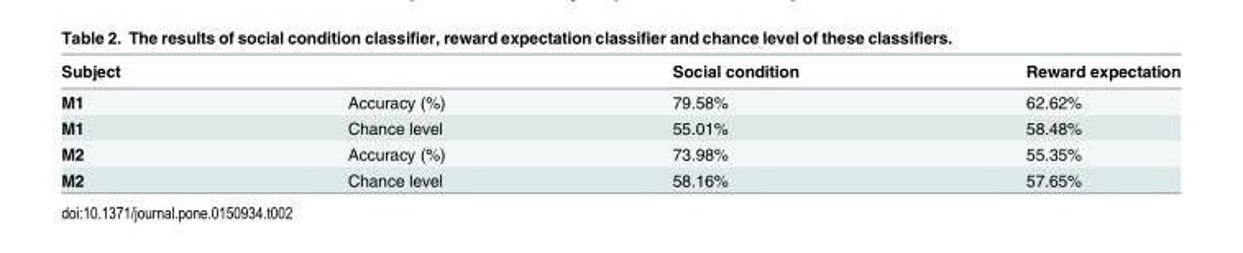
<table><thead><tr><td>Subject</td><td></td><td>Social condition</td><td>Reward expectation</td></tr></thead><tbody><tr><td>M1</td><td>Accuracy (%)</td><td>79.58%</td><td>62.62%</td></tr><tr><td>M1</td><td>Chance level</td><td>55.01%</td><td>58.48%</td></tr><tr><td>M2</td><td>Accuracy (%)</td><td>73.98%</td><td>55.35%</td></tr><tr><td>M2</td><td>Chance level</td><td>58.16%</td><td>57.65%</td></tr></tbody></table>